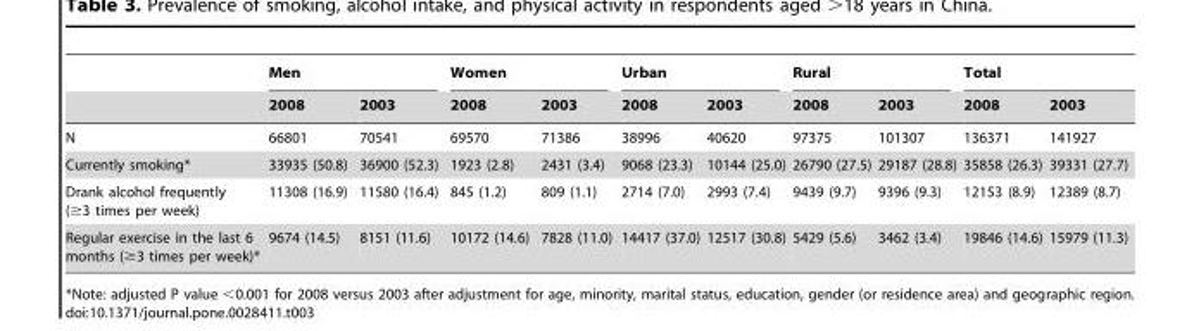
<table><thead><tr><td rowspan="2"></td><td colspan="2">Men</td><td colspan="2">Women</td><td colspan="2">Urban</td><td colspan="2">Rural</td><td colspan="2">Total</td></tr><tr><td>2008</td><td>2003</td><td>2008</td><td>2003</td><td>2008</td><td>2003</td><td>2008</td><td>2003</td><td>2008</td><td>2003</td></tr></thead><tbody><tr><td>N</td><td>66801</td><td>70541</td><td>69570</td><td>71386</td><td>38996</td><td>40620</td><td>97375</td><td>101307</td><td>136371</td><td>141927</td></tr><tr><td>Currently smoking*</td><td>33935 (50.8)</td><td>36900 (52.3)</td><td>1923 (2.8)</td><td>2431 (3.4)</td><td>9068 (23.3)</td><td>10144 (25.0)</td><td>26790 (27.5)</td><td>29187 (28.8)</td><td>35858 (26.3)</td><td>39331 (27.7)</td></tr><tr><td>Drank alcohol frequently (≥3 times per week)</td><td>11308 (16.9)</td><td>11580 (16.4)</td><td>845 (1.2)</td><td>809 (1.1)</td><td>2714 (7.0)</td><td>2993 (7.4)</td><td>9439 (9.7)</td><td>9396 (9.3)</td><td>12153 (8.9)</td><td>12389 (8.7)</td></tr><tr><td>Regular exercise in the last 6 months (≥3 times per week)*</td><td>9674 (14.5)</td><td>8151 (11.6)</td><td>10172 (14.6)</td><td>7828 (11.0)</td><td>14417 (37.0)</td><td>12517 (30.8)</td><td>5429 (5.6)</td><td>3462 (3.4)</td><td>19846 (14.6)</td><td>15979 (11.3)</td></tr></tbody></table>